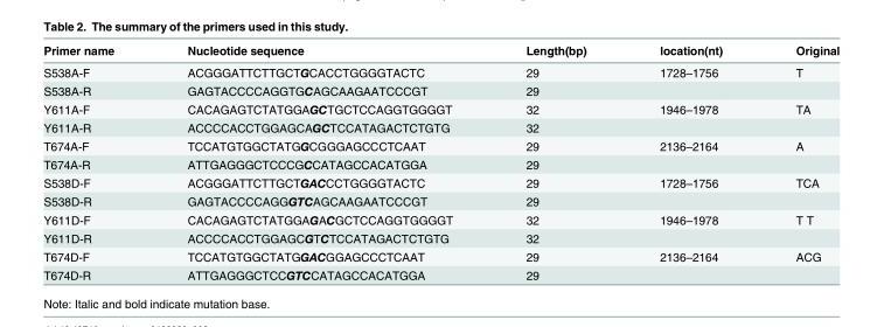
<table><thead><tr><td>Primer name</td><td>Nucleotide sequence</td><td>Length(bp)</td><td>location(nt)</td><td>Original</td></tr></thead><tbody><tr><td>S538A-F</td><td>ACGGGATTCTTGCTGCACCTGGGGTACTC</td><td>29</td><td>1728–1756</td><td>T</td></tr><tr><td>S538A-R</td><td>GAGTACCCCAGGTGCAGCAAGAATCCCGT</td><td>29</td><td></td><td></td></tr><tr><td>Y611A-F</td><td>CACAGAGTCTATGGAGCTGCTCCAGGTGGGGT</td><td>32</td><td>1946–1978</td><td>TA</td></tr><tr><td>Y611A-R</td><td>ACCCCACCTGGAGCAGCTCCATAGACTCTGTG</td><td>32</td><td></td><td></td></tr><tr><td>T674A-F</td><td>TCCATGTGGCTATGGCGGGAGCCCTCAAT</td><td>29</td><td>2136–2164</td><td>A</td></tr><tr><td>T674A-R</td><td>ATTGAGGGCTCCCGCCATAGCCACATGGA</td><td>29</td><td></td><td></td></tr><tr><td>S538D-F</td><td>ACGGGATTCTTGCTGACCCTGGGGTACTC</td><td>29</td><td>1728–1756</td><td>TCA</td></tr><tr><td>S538D-R</td><td>GAGTACCCCAGGGTCAGCAAGAATCCCGT</td><td>29</td><td></td><td></td></tr><tr><td>Y611D-F</td><td>CACAGAGTCTATGGAGACGCTCCAGGTGGGGT</td><td>32</td><td>1946–1978</td><td>T T</td></tr><tr><td>Y611D-R</td><td>ACCCCACCTGGAGCGTCTCCATAGACTCTGTG</td><td>32</td><td></td><td></td></tr><tr><td>T674D-F</td><td>TCCATGTGGCTATGGACGGAGCCCTCAAT</td><td>29</td><td>2136–2164</td><td>ACG</td></tr><tr><td>T674D-R</td><td>ATTGAGGGCTCCGTCCATAGCCACATGGA</td><td>29</td><td></td><td></td></tr></tbody></table>